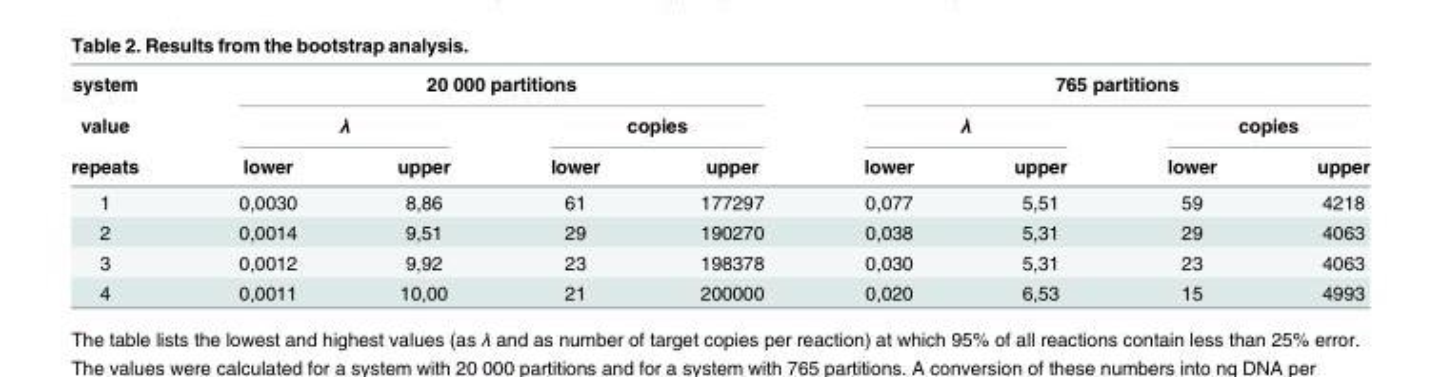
<table><thead><tr><td rowspan="3">system value repeats</td><td colspan="4">20 000 partitions</td><td colspan="4">765 partitions</td></tr><tr><td colspan="2">λ</td><td colspan="2">copies</td><td colspan="2">λ</td><td colspan="2">copies</td></tr><tr><td>lower</td><td>upper</td><td>lower</td><td>upper</td><td>lower</td><td>upper</td><td>lower</td><td>upper</td></tr></thead><tbody><tr><td>1</td><td>0,0030</td><td>8,86</td><td>61</td><td>177297</td><td>0,077</td><td>5,51</td><td>59</td><td>4218</td></tr><tr><td>2</td><td>0,0014</td><td>9,51</td><td>29</td><td>190270</td><td>0,038</td><td>5,31</td><td>29</td><td>4063</td></tr><tr><td>3</td><td>0,0012</td><td>9,92</td><td>23</td><td>198378</td><td>0,030</td><td>5,31</td><td>23</td><td>4063</td></tr><tr><td>4</td><td>0,0011</td><td>10,00</td><td>21</td><td>200000</td><td>0,020</td><td>6,53</td><td>15</td><td>4993</td></tr></tbody></table>